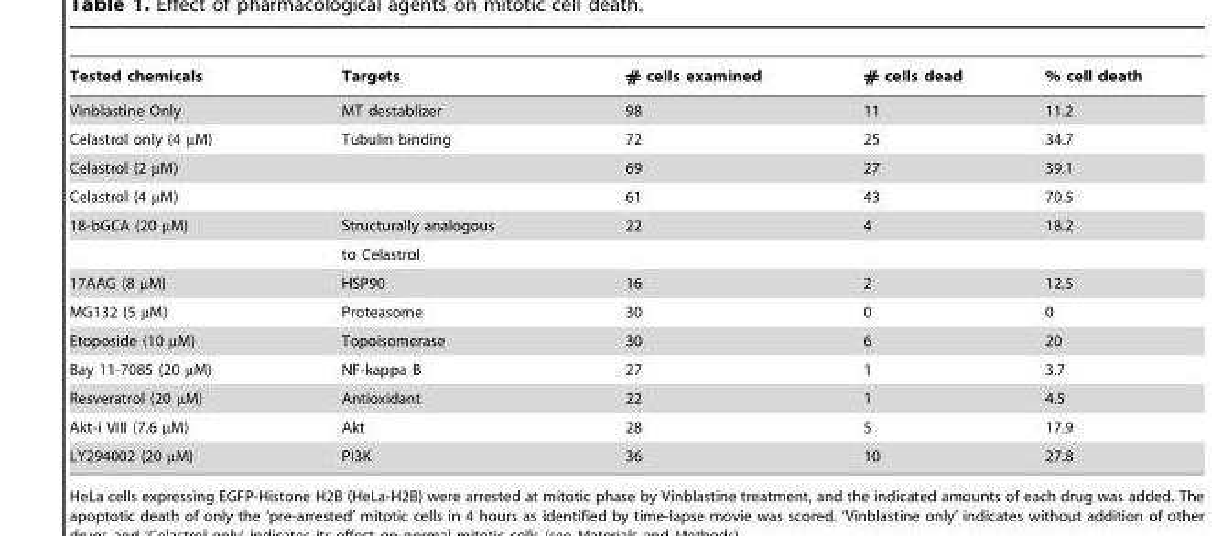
<table><thead><tr><td>Tested chemicals</td><td>Targets</td><td># cells examined</td><td># cells dead</td><td>% cell death</td></tr></thead><tbody><tr><td>Vinblastine Only</td><td>MT destablizer</td><td>98</td><td>11</td><td>11.2</td></tr><tr><td>Celastrol only (4 µM)</td><td>Tubulin binding</td><td>72</td><td>25</td><td>34.7</td></tr><tr><td>Celastrol (2 µM)</td><td></td><td>69</td><td>27</td><td>39.1</td></tr><tr><td>Celastrol (4 µM)</td><td></td><td>61</td><td>43</td><td>70.5</td></tr><tr><td rowspan="2">18-bGCA (20 µM)</td><td>Structurally analogous</td><td>22</td><td>4</td><td>18.2</td></tr><tr><td>to Celastrol</td><td></td><td></td><td></td></tr><tr><td>17AAG (8 µM)</td><td>HSP90</td><td>16</td><td>2</td><td>12.5</td></tr><tr><td>MG132 (5 µM)</td><td>Proteasome</td><td>30</td><td>0</td><td>0</td></tr><tr><td>Etoposide (10 µM)</td><td>Topoisomerase</td><td>30</td><td>6</td><td>20</td></tr><tr><td>Bay 11-7085 (20 µM)</td><td>NF-kappa B</td><td>27</td><td>1</td><td>3.7</td></tr><tr><td>Resveratrol (20 µM)</td><td>Antioxidant</td><td>22</td><td>1</td><td>4.5</td></tr><tr><td>Akt-i VIII (7.6 µM)</td><td>Akt</td><td>28</td><td>5</td><td>17.9</td></tr><tr><td>LY294002 (20 µM)</td><td>PI3K</td><td>36</td><td>10</td><td>27.8</td></tr></tbody></table>